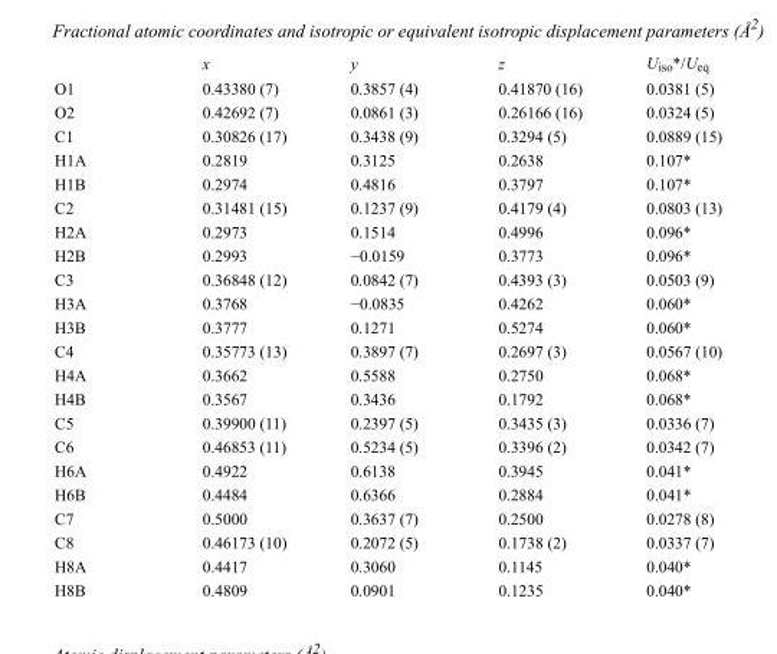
<table><thead><tr><td></td><td>x</td><td>y</td><td>z</td><td>U<sub>iso</sub>*/U<sub>eq</sub></td></tr></thead><tbody><tr><td>O1</td><td>0.43380 (7)</td><td>0.3857 (4)</td><td>0.41870 (16)</td><td>0.0381 (5)</td></tr><tr><td>O2</td><td>0.42692 (7)</td><td>0.0861 (3)</td><td>0.26166 (16)</td><td>0.0324 (5)</td></tr><tr><td>C1</td><td>0.30826 (17)</td><td>0.3438 (9)</td><td>0.3294 (5)</td><td>0.0889 (15)</td></tr><tr><td>H1A</td><td>0.2819</td><td>0.3125</td><td>0.2638</td><td>0.107*</td></tr><tr><td>H1B</td><td>0.2974</td><td>0.4816</td><td>0.3797</td><td>0.107*</td></tr><tr><td>C2</td><td>0.31481 (15)</td><td>0.1237 (9)</td><td>0.4179 (4)</td><td>0.0803 (13)</td></tr><tr><td>H2A</td><td>0.2973</td><td>0.1514</td><td>0.4996</td><td>0.096*</td></tr><tr><td>H2B</td><td>0.2993</td><td>−0.0159</td><td>0.3773</td><td>0.096*</td></tr><tr><td>C3</td><td>0.36848 (12)</td><td>0.0842 (7)</td><td>0.4393 (3)</td><td>0.0503 (9)</td></tr><tr><td>H3A</td><td>0.3768</td><td>−0.0835</td><td>0.4262</td><td>0.060*</td></tr><tr><td>H3B</td><td>0.3777</td><td>0.1271</td><td>0.5274</td><td>0.060*</td></tr><tr><td>C4</td><td>0.35773 (13)</td><td>0.3897 (7)</td><td>0.2697 (3)</td><td>0.0567 (10)</td></tr><tr><td>H4A</td><td>0.3662</td><td>0.5588</td><td>0.2750</td><td>0.068*</td></tr><tr><td>H4B</td><td>0.3567</td><td>0.3436</td><td>0.1792</td><td>0.068*</td></tr><tr><td>C5</td><td>0.39900 (11)</td><td>0.2397 (5)</td><td>0.3435 (3)</td><td>0.0336 (7)</td></tr><tr><td>C6</td><td>0.46853 (11)</td><td>0.5234 (5)</td><td>0.3396 (2)</td><td>0.0342 (7)</td></tr><tr><td>H6A</td><td>0.4922</td><td>0.6138</td><td>0.3945</td><td>0.041*</td></tr><tr><td>H6B</td><td>0.4484</td><td>0.6366</td><td>0.2884</td><td>0.041*</td></tr><tr><td>C7</td><td>0.5000</td><td>0.3637 (7)</td><td>0.2500</td><td>0.0278 (8)</td></tr><tr><td>C8</td><td>0.46173 (10)</td><td>0.2072 (5)</td><td>0.1738 (2)</td><td>0.0337 (7)</td></tr><tr><td>H8A</td><td>0.4417</td><td>0.3060</td><td>0.1145</td><td>0.040*</td></tr><tr><td>H8B</td><td>0.4809</td><td>0.0901</td><td>0.1235</td><td>0.040*</td></tr></tbody></table>